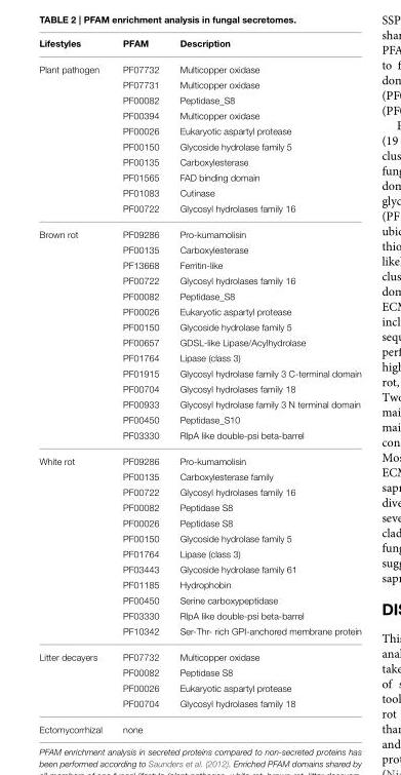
<table><thead><tr><td>Lifestyles</td><td>PFAM</td><td>Description</td></tr></thead><tbody><tr><td rowspan="10">Plant pathogen</td><td>PF07732</td><td>Multicopper oxidase</td></tr><tr><td>PF07731</td><td>Multicopper oxidase</td></tr><tr><td>PF00082</td><td>Peptidase_S8</td></tr><tr><td>PF00394</td><td>Multicopper oxidase</td></tr><tr><td>PF00026</td><td>Eukaryotic aspartyl protease</td></tr><tr><td>PF00150</td><td>Glycoside hydrolase family 5</td></tr><tr><td>PF00135</td><td>Carboxylesterase</td></tr><tr><td>PF01565</td><td>FAD binding domain</td></tr><tr><td>PF01083</td><td>Cutinase</td></tr><tr><td>PF00722</td><td>Glycosyl hydrolases family 16</td></tr><tr><td rowspan="14">Brown rot</td><td>PF09286</td><td>Pro-kumamolisin</td></tr><tr><td>PF00135</td><td>Carboxylesterase</td></tr><tr><td>PF13668</td><td>Ferritin-like</td></tr><tr><td>PF00722</td><td>Glycosyl hydrolases family 16</td></tr><tr><td>PF00082</td><td>Peptidase_S8</td></tr><tr><td>PF00026</td><td>Eukaryotic aspartyl protease</td></tr><tr><td>PF00150</td><td>Glycoside hydrolase family 5</td></tr><tr><td>PF00657</td><td>GDSL-like Lipase/Acylhydrolase</td></tr><tr><td>PF01764</td><td>Lipase (class 3)</td></tr><tr><td>PF01915</td><td>Glycosyl hydrolase family 3 C-terminal domain</td></tr><tr><td>PF00704</td><td>Glycosyl hydrolases family 18</td></tr><tr><td>PF00933</td><td>Glycosyl hydrolase family 3 N terminal domain</td></tr><tr><td>PF00450</td><td>Peptidase_S10</td></tr><tr><td>PF03330</td><td>RlpA like double-psi beta-barrel</td></tr><tr><td rowspan="12">White rot</td><td>PF09286</td><td>Pro-kumamolisin</td></tr><tr><td>PF00135</td><td>Carboxylesterase family</td></tr><tr><td>PF00722</td><td>Glycosyl hydrolases family 16</td></tr><tr><td>PF00082</td><td>Peptidase S8</td></tr><tr><td>PF00026</td><td>Peptidase S8</td></tr><tr><td>PF00150</td><td>Glycoside hydrolase family 5</td></tr><tr><td>PF01764</td><td>Lipase (class 3)</td></tr><tr><td>PF03443</td><td>Glycoside hydrolase family 61</td></tr><tr><td>PF01185</td><td>Hydrophobin</td></tr><tr><td>PF00450</td><td>Serine carboxypeptidase</td></tr><tr><td>PF03330</td><td>RlpA like double-psi beta-barrel</td></tr><tr><td>PF10342</td><td>Ser-Thr- rich GPI-anchored membrane protein</td></tr><tr><td rowspan="4">Litter decayers</td><td>PF07732</td><td>Multicopper oxidase</td></tr><tr><td>PF00082</td><td>Peptidase S8</td></tr><tr><td>PF00026</td><td>Eukaryotic aspartyl protease</td></tr><tr><td>PF00704</td><td>Glycosyl hydrolases family 18</td></tr><tr><td>Ectomycorrhizal</td><td>none</td><td></td></tr></tbody></table>